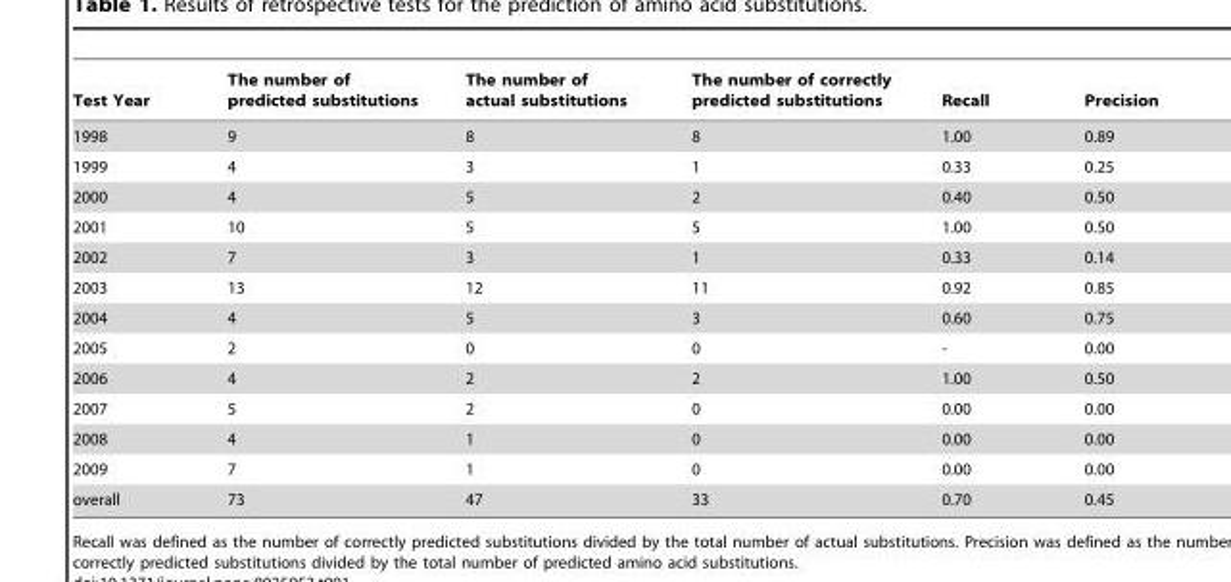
<table><thead><tr><td>Test Year</td><td>The number of predicted substitutions</td><td>The number of actual substitutions</td><td>The number of correctly predicted substitutions</td><td>Recall</td><td>Precision</td></tr></thead><tbody><tr><td>1998</td><td>9</td><td>8</td><td>8</td><td>1.00</td><td>0.89</td></tr><tr><td>1999</td><td>4</td><td>3</td><td>1</td><td>0.33</td><td>0.25</td></tr><tr><td>2000</td><td>4</td><td>5</td><td>2</td><td>0.40</td><td>0.50</td></tr><tr><td>2001</td><td>10</td><td>5</td><td>5</td><td>1.00</td><td>0.50</td></tr><tr><td>2002</td><td>7</td><td>3</td><td>1</td><td>0.33</td><td>0.14</td></tr><tr><td>2003</td><td>13</td><td>12</td><td>11</td><td>0.92</td><td>0.85</td></tr><tr><td>2004</td><td>4</td><td>5</td><td>3</td><td>0.60</td><td>0.75</td></tr><tr><td>2005</td><td>2</td><td>0</td><td>0</td><td>-</td><td>0.00</td></tr><tr><td>2006</td><td>4</td><td>2</td><td>2</td><td>1.00</td><td>0.50</td></tr><tr><td>2007</td><td>5</td><td>2</td><td>0</td><td>0.00</td><td>0.00</td></tr><tr><td>2008</td><td>4</td><td>1</td><td>0</td><td>0.00</td><td>0.00</td></tr><tr><td>2009</td><td>7</td><td>1</td><td>0</td><td>0.00</td><td>0.00</td></tr><tr><td>overall</td><td>73</td><td>47</td><td>33</td><td>0.70</td><td>0.45</td></tr></tbody></table>